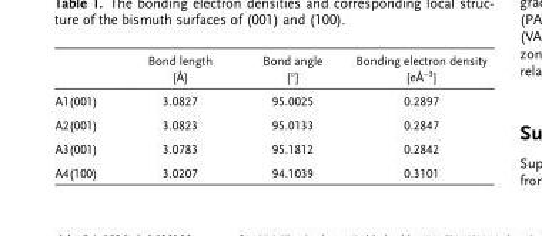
<table><thead><tr><td></td><td>Bond length [Å]</td><td>Bond angle [°]</td><td>Bonding electron density [eÅ<sup>−3</sup>]</td></tr></thead><tbody><tr><td>A1(001)</td><td>3.0827</td><td>95.0025</td><td>0.2897</td></tr><tr><td>A2(001)</td><td>3.0823</td><td>95.0133</td><td>0.2847</td></tr><tr><td>A3(001)</td><td>3.0783</td><td>95.1812</td><td>0.2842</td></tr><tr><td>A4(100)</td><td>3.0207</td><td>94.1039</td><td>0.3101</td></tr></tbody></table>